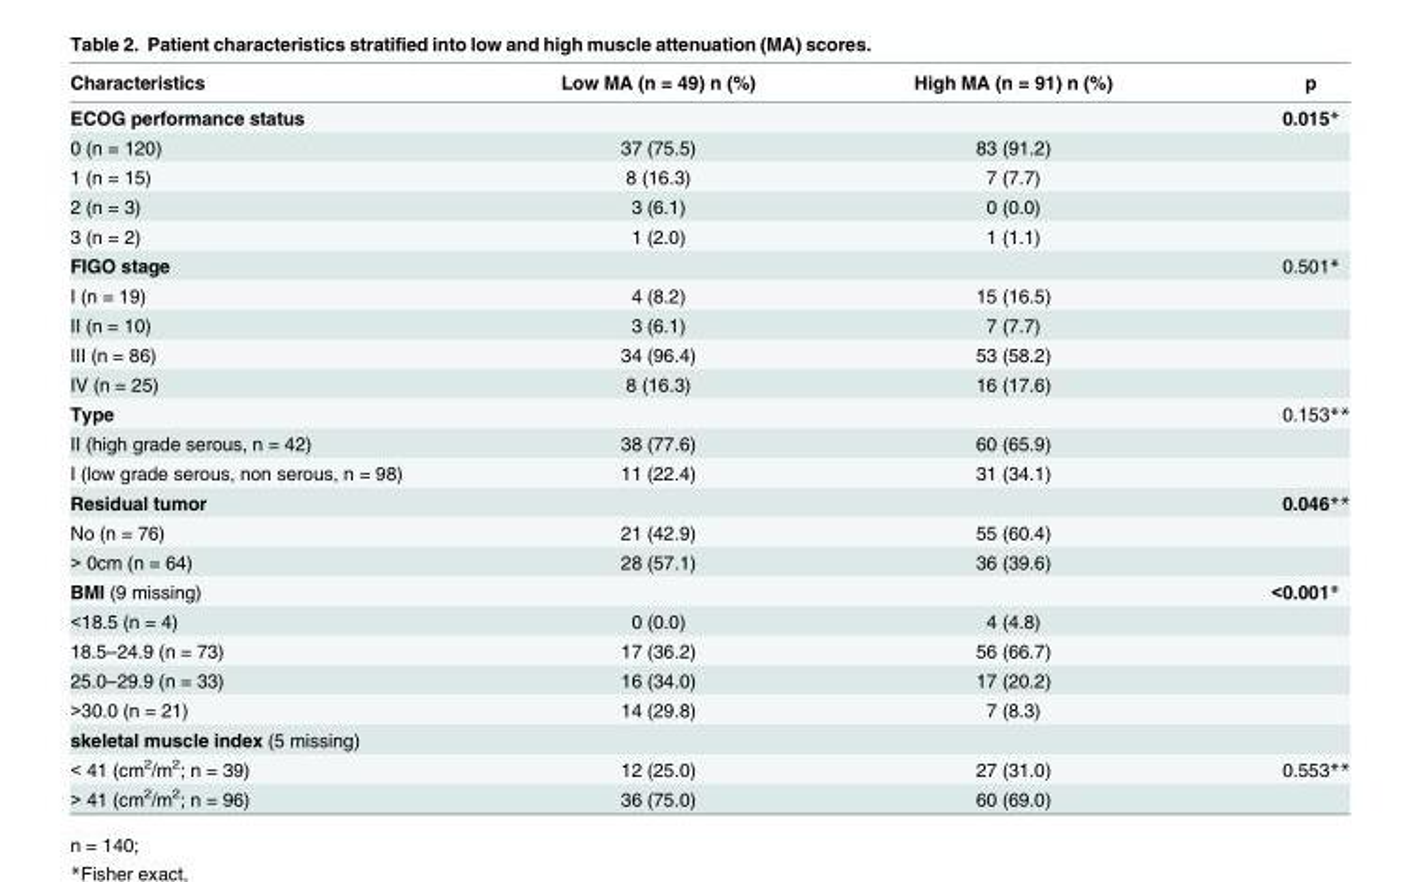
<table><thead><tr><td>Characteristics</td><td>Low MA (n = 49) n (%)</td><td>High MA (n = 91) n (%)</td><td>p</td></tr></thead><tbody><tr><td>ECOG performance status</td><td></td><td></td><td>0.015*</td></tr><tr><td>0 (n = 120)</td><td>37 (75.5)</td><td>83 (91.2)</td><td></td></tr><tr><td>1 (n = 15)</td><td>8 (16.3)</td><td>7 (7.7)</td><td></td></tr><tr><td>2 (n = 3)</td><td>3 (6.1)</td><td>0 (0.0)</td><td></td></tr><tr><td>3 (n = 2)</td><td>1 (2.0)</td><td>1 (1.1)</td><td></td></tr><tr><td>FIGO stage</td><td></td><td></td><td>0.501*</td></tr><tr><td>I (n = 19)</td><td>4 (8.2)</td><td>15 (16.5)</td><td></td></tr><tr><td>II (n = 10)</td><td>3 (6.1)</td><td>7 (7.7)</td><td></td></tr><tr><td>III (n = 86)</td><td>34 (96.4)</td><td>53 (58.2)</td><td></td></tr><tr><td>IV (n = 25)</td><td>8 (16.3)</td><td>16 (17.6)</td><td></td></tr><tr><td>Type</td><td></td><td></td><td>0.153**</td></tr><tr><td>II (high grade serous, n = 42)</td><td>38 (77.6)</td><td>60 (65.9)</td><td></td></tr><tr><td>I (low grade serous, non serous, n = 98)</td><td>11 (22.4)</td><td>31 (34.1)</td><td></td></tr><tr><td>Residual tumor</td><td></td><td></td><td>0.046**</td></tr><tr><td>No (n = 76)</td><td>21 (42.9)</td><td>55 (60.4)</td><td></td></tr><tr><td>&gt; 0cm (n = 64)</td><td>28 (57.1)</td><td>36 (39.6)</td><td></td></tr><tr><td>BMI (9 missing)</td><td></td><td></td><td>&lt;0.001*</td></tr><tr><td>&lt;18.5 (n = 4)</td><td>0 (0.0)</td><td>4 (4.8)</td><td></td></tr><tr><td>18.5–24.9 (n = 73)</td><td>17 (36.2)</td><td>56 (66.7)</td><td></td></tr><tr><td>25.0–29.9 (n = 33)</td><td>16 (34.0)</td><td>17 (20.2)</td><td></td></tr><tr><td>&gt;30.0 (n = 21)</td><td>14 (29.8)</td><td>7 (8.3)</td><td></td></tr><tr><td colspan="4">skeletal muscle index (5 missing)</td></tr><tr><td>&lt; 41 (cm<sup>2</sup>/m<sup>2</sup>; n = 39)</td><td>12 (25.0)</td><td>27 (31.0)</td><td>0.553**</td></tr><tr><td>&gt; 41 (cm<sup>2</sup>/m<sup>2</sup>; n = 96)</td><td>36 (75.0)</td><td>60 (69.0)</td><td></td></tr></tbody></table>